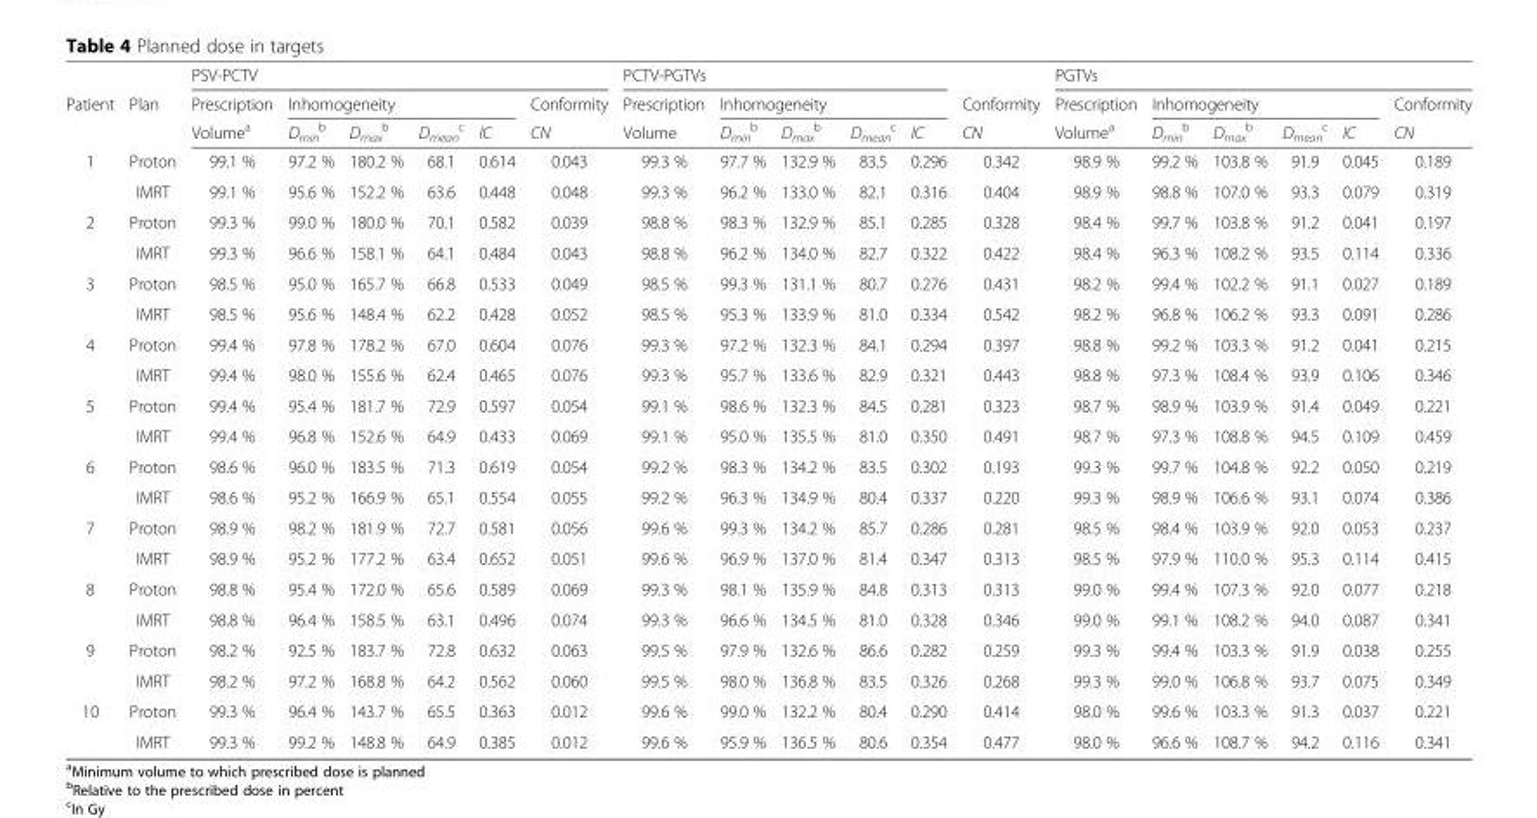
<table><thead><tr><td rowspan="3">Patient</td><td rowspan="3">Plan</td><td colspan="6">PSV-PCTV</td><td colspan="5">PCTV-PGTVs</td><td rowspan="3">Conformity CN</td><td colspan="6">PGTVs</td></tr><tr><td rowspan="2">Prescription Volume<sup>a</sup></td><td colspan="4">Inhomogeneity</td><td rowspan="2">Conformity CN</td><td rowspan="2">Prescription Volume</td><td colspan="4">Inhomogeneity</td><td rowspan="2">Prescription Volume<sup>a</sup></td><td colspan="4">Inhomogeneity</td><td rowspan="2">Conformity CN</td></tr><tr><td>D<sub>min</sub> <sup>b</sup></td><td>D<sub>max</sub> <sup>b</sup></td><td>D<sub>mean</sub> <sup>c</sup></td><td>IC</td><td>D<sub>min</sub> <sup>b</sup></td><td>D<sub>max</sub> <sup>b</sup></td><td>D<sub>mean</sub> <sup>c</sup></td><td>IC</td><td>D<sub>min</sub> <sup>b</sup></td><td>D<sub>max</sub> <sup>b</sup></td><td>D<sub>mean</sub> <sup>c</sup></td><td>IC</td></tr></thead><tbody><tr><td rowspan="2">1</td><td>Proton</td><td>99.1 %</td><td>97.2 %</td><td>180.2 %</td><td>68.1</td><td>0.614</td><td>0.043</td><td>99.3 %</td><td>97.7 %</td><td>132.9 %</td><td>83.5</td><td>0.296</td><td>0.342</td><td>98.9 %</td><td>99.2 %</td><td>103.8 %</td><td>91.9</td><td>0.045</td><td>0.189</td></tr><tr><td>IMRT</td><td>99.1 %</td><td>95.6 %</td><td>152.2 %</td><td>63.6</td><td>0.448</td><td>0.048</td><td>99.3 %</td><td>96.2 %</td><td>133.0 %</td><td>82.1</td><td>0.316</td><td>0.404</td><td>98.9 %</td><td>98.8 %</td><td>107.0 %</td><td>93.3</td><td>0.079</td><td>0.319</td></tr><tr><td rowspan="2">2</td><td>Proton</td><td>99.3 %</td><td>99.0 %</td><td>180.0 %</td><td>70.1</td><td>0.582</td><td>0.039</td><td>98.8 %</td><td>98.3 %</td><td>132.9 %</td><td>85.1</td><td>0.285</td><td>0.328</td><td>98.4 %</td><td>99.7 %</td><td>103.8 %</td><td>91.2</td><td>0.041</td><td>0.197</td></tr><tr><td>IMRT</td><td>99.3 %</td><td>96.6 %</td><td>158.1 %</td><td>64.1</td><td>0.484</td><td>0.043</td><td>98.8 %</td><td>96.2 %</td><td>134.0 %</td><td>82.7</td><td>0.322</td><td>0.422</td><td>98.4 %</td><td>96.3 %</td><td>108.2 %</td><td>93.5</td><td>0.114</td><td>0.336</td></tr><tr><td rowspan="2">3</td><td>Proton</td><td>98.5 %</td><td>95.0 %</td><td>165.7 %</td><td>66.8</td><td>0.533</td><td>0.049</td><td>98.5 %</td><td>99.3 %</td><td>131.1 %</td><td>80.7</td><td>0.276</td><td>0.431</td><td>98.2 %</td><td>99.4 %</td><td>102.2 %</td><td>91.1</td><td>0.027</td><td>0.189</td></tr><tr><td>IMRT</td><td>98.5 %</td><td>95.6 %</td><td>148.4 %</td><td>62.2</td><td>0.428</td><td>0.052</td><td>98.5 %</td><td>95.3 %</td><td>133.9 %</td><td>81.0</td><td>0.334</td><td>0.542</td><td>98.2 %</td><td>96.8 %</td><td>106.2 %</td><td>93.3</td><td>0.091</td><td>0.286</td></tr><tr><td rowspan="2">4</td><td>Proton</td><td>99.4 %</td><td>97.8 %</td><td>178.2 %</td><td>67.0</td><td>0.604</td><td>0.076</td><td>99.3 %</td><td>97.2 %</td><td>132.3 %</td><td>84.1</td><td>0.294</td><td>0.397</td><td>98.8 %</td><td>99.2 %</td><td>103.3 %</td><td>91.2</td><td>0.041</td><td>0.215</td></tr><tr><td>IMRT</td><td>99.4 %</td><td>98.0 %</td><td>155.6 %</td><td>62.4</td><td>0.465</td><td>0.076</td><td>99.3 %</td><td>95.7 %</td><td>133.6 %</td><td>82.9</td><td>0.321</td><td>0.443</td><td>98.8 %</td><td>97.3 %</td><td>108.4 %</td><td>93.9</td><td>0.106</td><td>0.346</td></tr><tr><td rowspan="2">5</td><td>Proton</td><td>99.4 %</td><td>95.4 %</td><td>181.7 %</td><td>72.9</td><td>0.597</td><td>0.054</td><td>99.1 %</td><td>98.6 %</td><td>132.3 %</td><td>84.5</td><td>0.281</td><td>0.323</td><td>98.7 %</td><td>98.9 %</td><td>103.9 %</td><td>91.4</td><td>0.049</td><td>0.221</td></tr><tr><td>IMRT</td><td>99.4 %</td><td>96.8 %</td><td>152.6 %</td><td>64.9</td><td>0.433</td><td>0.069</td><td>99.1 %</td><td>95.0 %</td><td>135.5 %</td><td>81.0</td><td>0.350</td><td>0.491</td><td>98.7 %</td><td>97.3 %</td><td>108.8 %</td><td>94.5</td><td>0.109</td><td>0.459</td></tr><tr><td rowspan="2">6</td><td>Proton</td><td>98.6 %</td><td>96.0 %</td><td>183.5 %</td><td>71.3</td><td>0.619</td><td>0.054</td><td>99.2 %</td><td>98.3 %</td><td>134.2 %</td><td>83.5</td><td>0.302</td><td>0.193</td><td>99.3 %</td><td>99.7 %</td><td>104.8 %</td><td>92.2</td><td>0.050</td><td>0.219</td></tr><tr><td>IMRT</td><td>98.6 %</td><td>95.2 %</td><td>166.9 %</td><td>65.1</td><td>0.554</td><td>0.055</td><td>99.2 %</td><td>96.3 %</td><td>134.9 %</td><td>80.4</td><td>0.337</td><td>0.220</td><td>99.3 %</td><td>98.9 %</td><td>106.6 %</td><td>93.1</td><td>0.074</td><td>0.386</td></tr><tr><td rowspan="2">7</td><td>Proton</td><td>98.9 %</td><td>98.2 %</td><td>181.9 %</td><td>72.7</td><td>0.581</td><td>0.056</td><td>99.6 %</td><td>99.3 %</td><td>134.2 %</td><td>85.7</td><td>0.286</td><td>0.281</td><td>98.5 %</td><td>98.4 %</td><td>103.9 %</td><td>92.0</td><td>0.053</td><td>0.237</td></tr><tr><td>IMRT</td><td>98.9 %</td><td>95.2 %</td><td>177.2 %</td><td>63.4</td><td>0.652</td><td>0.051</td><td>99.6 %</td><td>96.9 %</td><td>137.0 %</td><td>81.4</td><td>0.347</td><td>0.313</td><td>98.5 %</td><td>97.9 %</td><td>110.0 %</td><td>95.3</td><td>0.114</td><td>0.415</td></tr><tr><td rowspan="2">8</td><td>Proton</td><td>98.8 %</td><td>95.4 %</td><td>172.0 %</td><td>65.6</td><td>0.589</td><td>0.069</td><td>99.3 %</td><td>98.1 %</td><td>135.9 %</td><td>84.8</td><td>0.313</td><td>0.313</td><td>99.0 %</td><td>99.4 %</td><td>107.3 %</td><td>92.0</td><td>0.077</td><td>0.218</td></tr><tr><td>IMRT</td><td>98.8 %</td><td>96.4 %</td><td>158.5 %</td><td>63.1</td><td>0.496</td><td>0.074</td><td>99.3 %</td><td>96.6 %</td><td>134.5 %</td><td>81.0</td><td>0.328</td><td>0.346</td><td>99.0 %</td><td>99.1 %</td><td>108.2 %</td><td>94.0</td><td>0.087</td><td>0.341</td></tr><tr><td rowspan="2">9</td><td>Proton</td><td>98.2 %</td><td>92.5 %</td><td>183.7 %</td><td>72.8</td><td>0.632</td><td>0.063</td><td>99.5 %</td><td>97.9 %</td><td>132.6 %</td><td>86.6</td><td>0.282</td><td>0.259</td><td>99.3 %</td><td>99.4 %</td><td>103.3 %</td><td>91.9</td><td>0.038</td><td>0.255</td></tr><tr><td>IMRT</td><td>98.2 %</td><td>97.2 %</td><td>168.8 %</td><td>64.2</td><td>0.562</td><td>0.060</td><td>99.5 %</td><td>98.0 %</td><td>136.8 %</td><td>83.5</td><td>0.326</td><td>0.268</td><td>99.3 %</td><td>99.0 %</td><td>106.8 %</td><td>93.7</td><td>0.075</td><td>0.349</td></tr><tr><td rowspan="2">10</td><td>Proton</td><td>99.3 %</td><td>96.4 %</td><td>143.7 %</td><td>65.5</td><td>0.363</td><td>0.012</td><td>99.6 %</td><td>99.0 %</td><td>132.2 %</td><td>80.4</td><td>0.290</td><td>0.414</td><td>98.0 %</td><td>99.6 %</td><td>103.3 %</td><td>91.3</td><td>0.037</td><td>0.221</td></tr><tr><td>IMRT</td><td>99.3 %</td><td>99.2 %</td><td>148.8 %</td><td>64.9</td><td>0.385</td><td>0.012</td><td>99.6 %</td><td>95.9 %</td><td>136.5 %</td><td>80.6</td><td>0.354</td><td>0.477</td><td>98.0 %</td><td>96.6 %</td><td>108.7 %</td><td>94.2</td><td>0.116</td><td>0.341</td></tr></tbody></table>